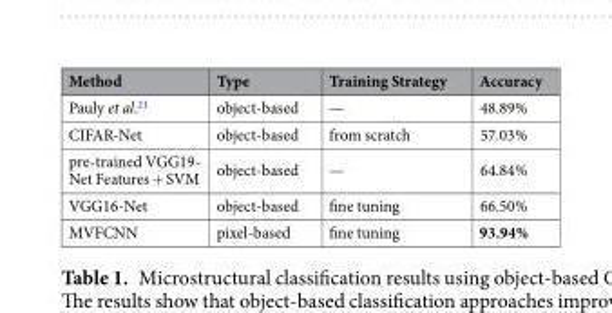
<table><thead><tr><td>Method</td><td>Type</td><td>Training Strategy</td><td>Accuracy</td></tr></thead><tbody><tr><td>Pauly et al.<sup>21</sup></td><td>object-based</td><td>—</td><td>48.89%</td></tr><tr><td>CIFAR-Net</td><td>object-based</td><td>from scratch</td><td>57.03%</td></tr><tr><td>pre-trained VGG19- Net Features + SVM</td><td>object-based</td><td>—</td><td>64.84%</td></tr><tr><td>VGG16-Net</td><td>object-based</td><td>fine tuning</td><td>66.50%</td></tr><tr><td>MVFCNN</td><td>pixel-based</td><td>fine tuning</td><td>93.94%</td></tr></tbody></table>